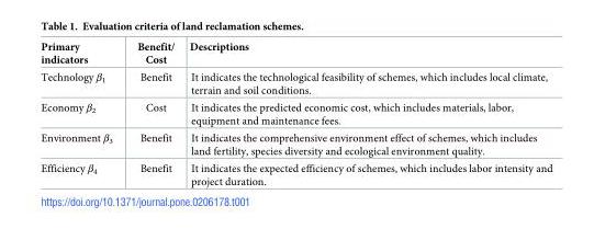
<table><thead><tr><td>Primary indicators</td><td>Benefit/ Cost</td><td>Descriptions</td></tr></thead><tbody><tr><td>Technology β<sub>1</sub></td><td>Benefit</td><td>It indicates the technological feasibility of schemes, which includes local climate, terrain and soil conditions.</td></tr><tr><td>Economy β<sub>2</sub></td><td>Cost</td><td>It indicates the predicted economic cost, which includes materials, labor, equipment and maintenance fees.</td></tr><tr><td>Environment β<sub>3</sub></td><td>Benefit</td><td>It indicates the comprehensive environment effect of schemes, which includes land fertility, species diversity and ecological environment quality.</td></tr><tr><td>Efficiency β<sub>4</sub></td><td>Benefit</td><td>It indicates the expected efficiency of schemes, which includes labor intensity and project duration.</td></tr></tbody></table>